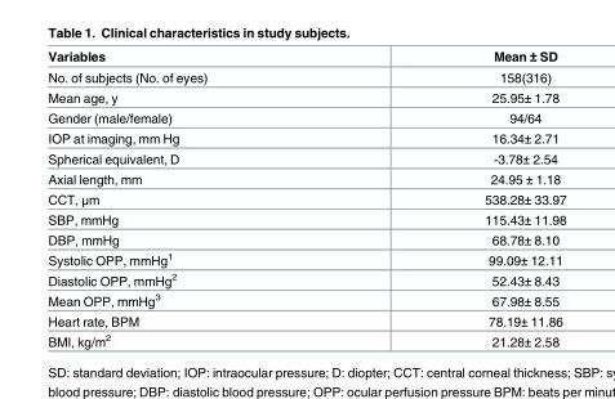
<table><thead><tr><td>Variables</td><td>Mean ± SD</td></tr></thead><tbody><tr><td>No. of subjects (No. of eyes)</td><td>158(316)</td></tr><tr><td>Mean age, y</td><td>25.95± 1.78</td></tr><tr><td>Gender (male/female)</td><td>94/64</td></tr><tr><td>IOP at imaging, mm Hg</td><td>16.34± 2.71</td></tr><tr><td>Spherical equivalent, D</td><td>-3.78± 2.54</td></tr><tr><td>Axial length, mm</td><td>24.95 ± 1.18</td></tr><tr><td>CCT, μm</td><td>538.28± 33.97</td></tr><tr><td>SBP, mmHg</td><td>115.43± 11.98</td></tr><tr><td>DBP, mmHg</td><td>68.78± 8.10</td></tr><tr><td>Systolic OPP, mmHg<sup>1</sup></td><td>99.09± 12.11</td></tr><tr><td>Diastolic OPP, mmHg<sup>2</sup></td><td>52.43± 8.43</td></tr><tr><td>Mean OPP, mmHg<sup>3</sup></td><td>67.98± 8.55</td></tr><tr><td>Heart rate, BPM</td><td>78.19± 11.86</td></tr><tr><td>BMI, kg/m<sup>2</sup></td><td>21.28± 2.58</td></tr></tbody></table>